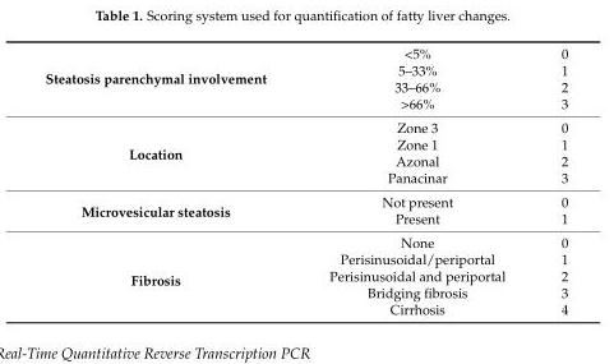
<table><tbody><tr><td rowspan="4">Steatosis parenchymal involvement</td><td>&lt;5%</td><td>0</td></tr><tr><td>5–33%</td><td>1</td></tr><tr><td>33–66%</td><td>2</td></tr><tr><td>&gt;66%</td><td>3</td></tr><tr><td rowspan="4">Location</td><td>Zone 3</td><td>0</td></tr><tr><td>Zone 1</td><td>1</td></tr><tr><td>Azonal</td><td>2</td></tr><tr><td>Panacinar</td><td>3</td></tr><tr><td rowspan="2">Microvesicular steatosis</td><td>Not present</td><td>0</td></tr><tr><td>Present</td><td>1</td></tr><tr><td rowspan="5">Fibrosis</td><td>None</td><td>0</td></tr><tr><td>Perisinusoidal/periportal</td><td>1</td></tr><tr><td>Perisinusoidal and periportal</td><td>2</td></tr><tr><td>Bridging fibrosis</td><td>3</td></tr><tr><td>Cirrhosis</td><td>4</td></tr></tbody></table>